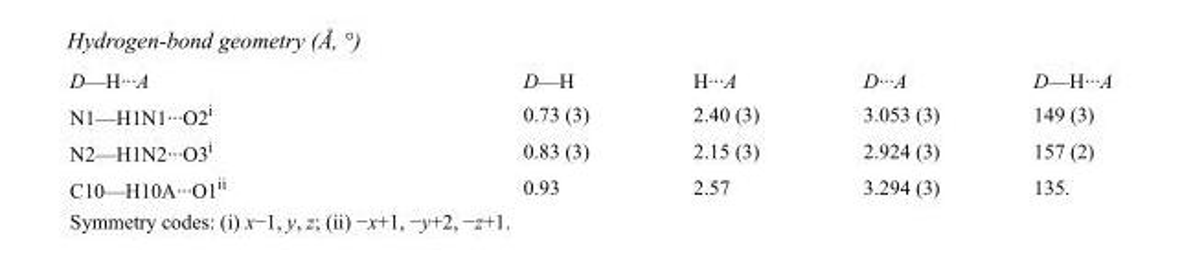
<table><tbody><tr><td>D—H···A</td><td>D—H</td><td>H···A</td><td>D···A</td><td>D—H···A</td></tr><tr><td>N1—H1N1···O2<sup>i</sup></td><td>0.73 (3)</td><td>2.40 (3)</td><td>3.053 (3)</td><td>149 (3)</td></tr><tr><td>N2—H1N2···O3<sup>i</sup></td><td>0.83 (3)</td><td>2.15 (3)</td><td>2.924 (3)</td><td>157 (2)</td></tr><tr><td>C10—H10A···O1<sup>ii</sup></td><td>0.93</td><td>2.57</td><td>3.294 (3)</td><td>135.</td></tr></tbody></table>